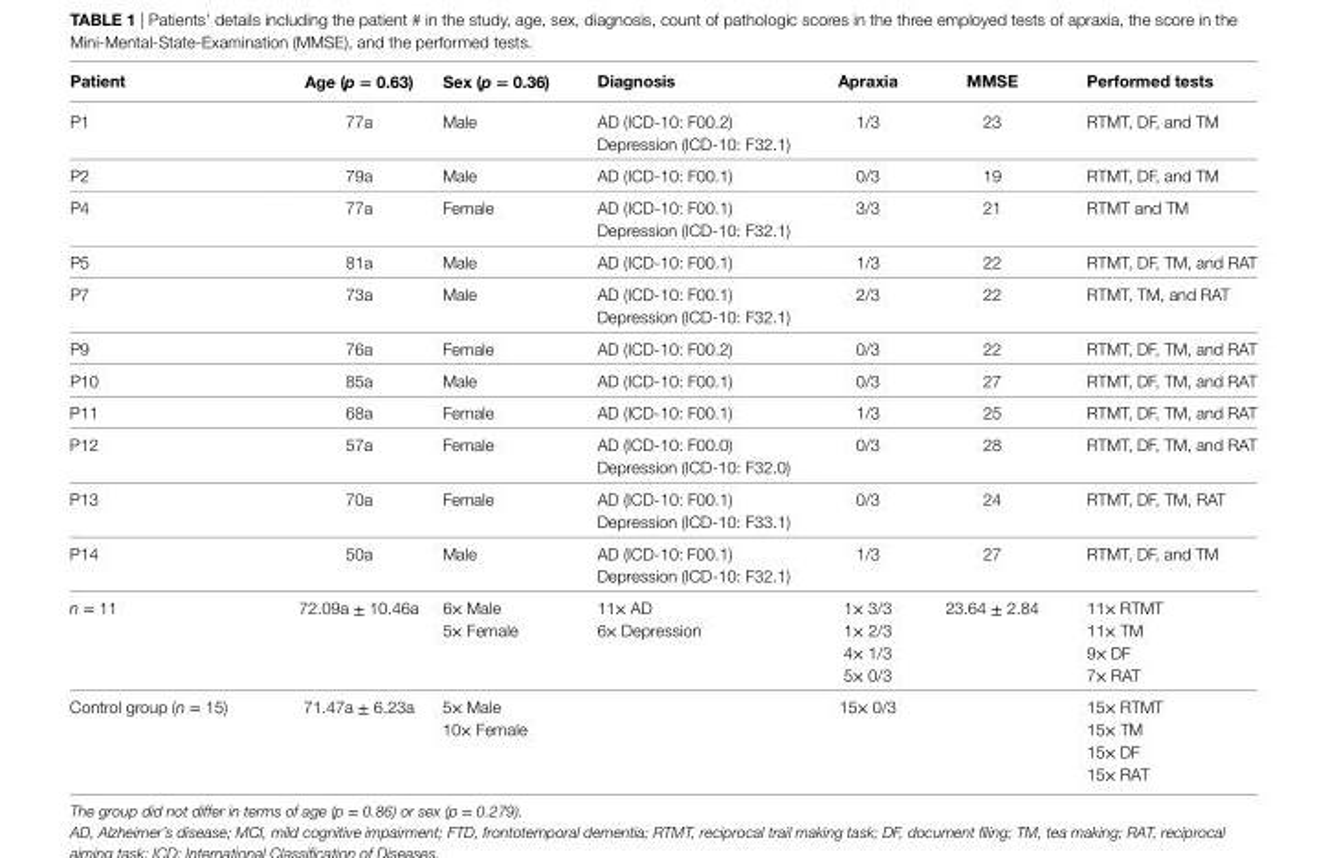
<table><thead><tr><td>Patient</td><td>age (p = 0.63)</td><td>sex (p = 0.36)</td><td>Diagnosis</td><td>apraxia</td><td>MMse</td><td>Performed tests</td></tr></thead><tbody><tr><td>P1</td><td>77a</td><td>Male</td><td>AD (ICD-10: F00.2) Depression (ICD-10: F32.1)</td><td>1/3</td><td>23</td><td>RTMT, DF, and TM</td></tr><tr><td>P2</td><td>79a</td><td>Male</td><td>AD (ICD-10: F00.1)</td><td>0/3</td><td>19</td><td>RTMT, DF, and TM</td></tr><tr><td>P4</td><td>77a</td><td>Female</td><td>AD (ICD-10: F00.1) Depression (ICD-10: F32.1)</td><td>3/3</td><td>21</td><td>RTMT and TM</td></tr><tr><td>P5</td><td>81a</td><td>Male</td><td>AD (ICD-10: F00.1)</td><td>1/3</td><td>22</td><td>RTMT, DF, TM, and RAT</td></tr><tr><td>P7</td><td>73a</td><td>Male</td><td>AD (ICD-10: F00.1) Depression (ICD-10: F32.1)</td><td>2/3</td><td>22</td><td>RTMT, TM, and RAT</td></tr><tr><td>P9</td><td>76a</td><td>Female</td><td>AD (ICD-10: F00.2)</td><td>0/3</td><td>22</td><td>RTMT, DF, TM, and RAT</td></tr><tr><td>P10</td><td>85a</td><td>Male</td><td>AD (ICD-10: F00.1)</td><td>0/3</td><td>27</td><td>RTMT, DF, TM, and RAT</td></tr><tr><td>P11</td><td>68a</td><td>Female</td><td>AD (ICD-10: F00.1)</td><td>1/3</td><td>25</td><td>RTMT, DF, TM, and RAT</td></tr><tr><td>P12</td><td>57a</td><td>Female</td><td>AD (ICD-10: F00.0) Depression (ICD-10: F32.0)</td><td>0/3</td><td>28</td><td>RTMT, DF, TM, and RAT</td></tr><tr><td>P13</td><td>70a</td><td>Female</td><td>AD (ICD-10: F00.1) Depression (ICD-10: F33.1)</td><td>0/3</td><td>24</td><td>RTMT, DF, TM, RAT</td></tr><tr><td>P14</td><td>50a</td><td>Male</td><td>AD (ICD-10: F00.1) Depression (ICD-10: F32.1)</td><td>1/3</td><td>27</td><td>RTMT, DF, and TM</td></tr><tr><td>n = 11</td><td>72.09a ± 10.46a</td><td>6× Male 5× Female</td><td>11× AD 6× Depression</td><td>1× 3/3 1× 2/3 4× 1/3 5× 0/3</td><td>23.64 ± 2.84</td><td>11× RTMT 11× TM 9× DF 7× RAT</td></tr><tr><td>Control group (n = 15)</td><td>71.47a ± 6.23a</td><td>5× Male 10× Female</td><td></td><td>15× 0/3</td><td></td><td>15× RTMT 15× TM 15× DF 15× RAT</td></tr></tbody></table>